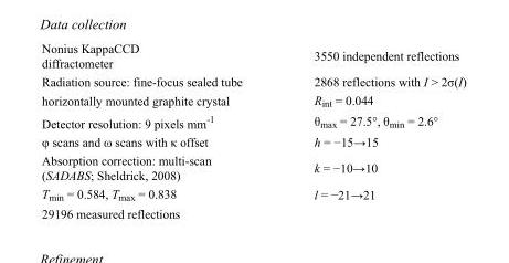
<table><tbody><tr><td>Nonius KappaCCD diffractometer</td><td>3550 independent reflections</td></tr><tr><td>Radiation source: fine-focus sealed tube</td><td>2868 reflections with I &gt; 2σ(I)</td></tr><tr><td>horizontally mounted graphite crystal</td><td>R<sub>int</sub> = 0.044</td></tr><tr><td>Detector resolution: 9 pixels mm<sup>-1</sup></td><td>θ<sub>max</sub> = 27.5°, θ<sub>min</sub> = 2.6°</td></tr><tr><td>φ scans and ω scans with κ offset</td><td>h = −15→15</td></tr><tr><td>Absorption correction: multi-scan (SADABS; Sheldrick, 2008)</td><td>k = −10→10</td></tr><tr><td>T<sub>min</sub> = 0.584, T<sub>max</sub> = 0.838</td><td>l = −21→21</td></tr><tr><td>29196 measured reflections</td><td></td></tr></tbody></table>